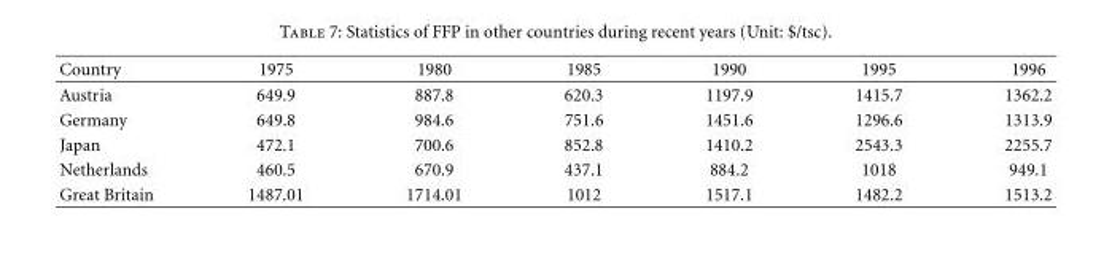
<table><thead><tr><td>Country</td><td>1975</td><td>1980</td><td>1985</td><td>1990</td><td>1995</td><td>1996</td></tr></thead><tbody><tr><td>Austria</td><td>649.9</td><td>887.8</td><td>620.3</td><td>1197.9</td><td>1415.7</td><td>1362.2</td></tr><tr><td>Germany</td><td>649.8</td><td>984.6</td><td>751.6</td><td>1451.6</td><td>1296.6</td><td>1313.9</td></tr><tr><td>Japan</td><td>472.1</td><td>700.6</td><td>852.8</td><td>1410.2</td><td>2543.3</td><td>2255.7</td></tr><tr><td>Netherlands</td><td>460.5</td><td>670.9</td><td>437.1</td><td>884.2</td><td>1018</td><td>949.1</td></tr><tr><td>Great Britain</td><td>1487.01</td><td>1714.01</td><td>1012</td><td>1517.1</td><td>1482.2</td><td>1513.2</td></tr></tbody></table>